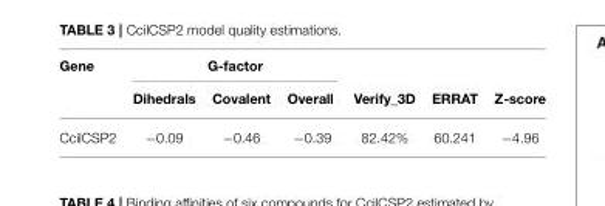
<table><thead><tr><td rowspan="2">Gene</td><td colspan="3">G-factor</td><td rowspan="2">Verify_3D</td><td rowspan="2">ERRAT</td><td rowspan="2">Z-score</td></tr><tr><td>Dihedrals</td><td>Covalent</td><td>Overall</td></tr></thead><tbody><tr><td>CcilCSP2</td><td>−0.09</td><td>−0.46</td><td>−0.39</td><td>82.42%</td><td>60.241</td><td>−4.96</td></tr></tbody></table>